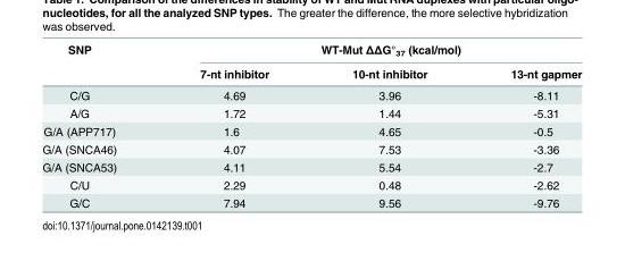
<table><thead><tr><td rowspan="2">SNP</td><td colspan="3">WT-Mut ΔΔG°<sub>37</sub> (kcal/mol)</td></tr><tr><td>7-nt inhibitor</td><td>10-nt inhibitor</td><td>13-nt gapmer</td></tr></thead><tbody><tr><td>C/G</td><td>4.69</td><td>3.96</td><td>-8.11</td></tr><tr><td>A/G</td><td>1.72</td><td>1.44</td><td>-5.31</td></tr><tr><td>G/A (APP717)</td><td>1.6</td><td>4.65</td><td>-0.5</td></tr><tr><td>G/A (SNCA46)</td><td>4.07</td><td>7.53</td><td>-3.36</td></tr><tr><td>G/A (SNCA53)</td><td>4.11</td><td>5.54</td><td>-2.7</td></tr><tr><td>C/U</td><td>2.29</td><td>0.48</td><td>-2.62</td></tr><tr><td>G/C</td><td>7.94</td><td>9.56</td><td>-9.76</td></tr></tbody></table>